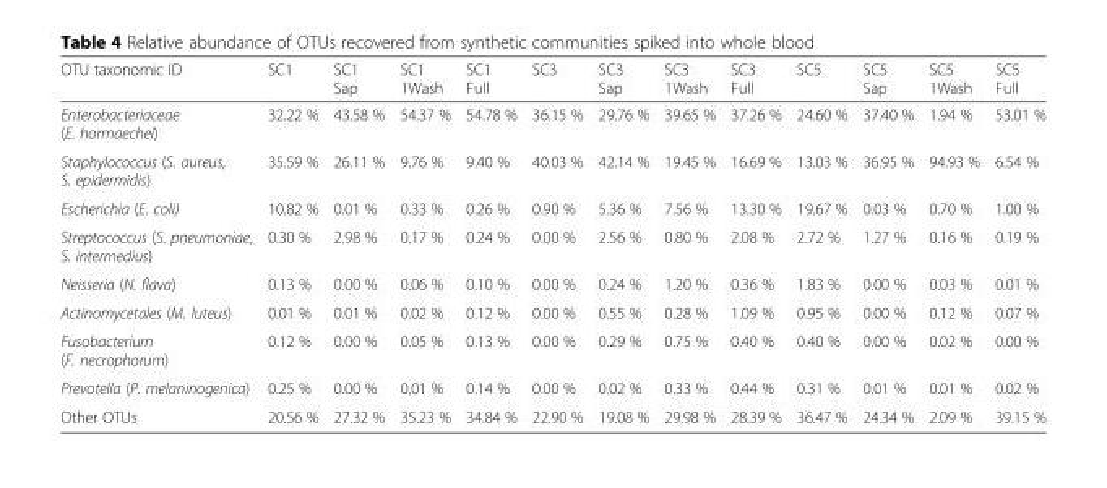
<table><thead><tr><td>OTU taxonomic ID</td><td>SC1</td><td>SC1 Sap</td><td>SC1 1Wash</td><td>SC1 Full</td><td>SC3</td><td>SC3 Sap</td><td>SC3 1Wash</td><td>SC3 Full</td><td>SC5</td><td>SC5 Sap</td><td>SC5 1Wash</td><td>SC5 Full</td></tr></thead><tbody><tr><td>Enterobacteriaceae (E. hormaechei)</td><td>32.22 %</td><td>43.58 %</td><td>54.37 %</td><td>54.78 %</td><td>36.15 %</td><td>29.76 %</td><td>39.65 %</td><td>37.26 %</td><td>24.60 %</td><td>37.40 %</td><td>1.94 %</td><td>53.01 %</td></tr><tr><td>Staphylococcus (S. aureus, S. epidermidis)</td><td>35.59 %</td><td>26.11 %</td><td>9.76 %</td><td>9.40 %</td><td>40.03 %</td><td>42.14 %</td><td>19.45 %</td><td>16.69 %</td><td>13.03 %</td><td>36.95 %</td><td>94.93 %</td><td>6.54 %</td></tr><tr><td>Escherichia (E. coli)</td><td>10.82 %</td><td>0.01 %</td><td>0.33 %</td><td>0.26 %</td><td>0.90 %</td><td>5.36 %</td><td>7.56 %</td><td>13.30 %</td><td>19.67 %</td><td>0.03 %</td><td>0.70 %</td><td>1.00 %</td></tr><tr><td>Streptococcus (S. pneumoniae, S. intermedius)</td><td>0.30 %</td><td>2.98 %</td><td>0.17 %</td><td>0.24 %</td><td>0.00 %</td><td>2.56 %</td><td>0.80 %</td><td>2.08 %</td><td>2.72 %</td><td>1.27 %</td><td>0.16 %</td><td>0.19 %</td></tr><tr><td>Neisseria (N. flava)</td><td>0.13 %</td><td>0.00 %</td><td>0.06 %</td><td>0.10 %</td><td>0.00 %</td><td>0.24 %</td><td>1.20 %</td><td>0.36 %</td><td>1.83 %</td><td>0.00 %</td><td>0.03 %</td><td>0.01 %</td></tr><tr><td>Actinomycetales (M. luteus)</td><td>0.01 %</td><td>0.01 %</td><td>0.02 %</td><td>0.12 %</td><td>0.00 %</td><td>0.55 %</td><td>0.28 %</td><td>1.09 %</td><td>0.95 %</td><td>0.00 %</td><td>0.12 %</td><td>0.07 %</td></tr><tr><td>Fusobacterium (F. necrophorum)</td><td>0.12 %</td><td>0.00 %</td><td>0.05 %</td><td>0.13 %</td><td>0.00 %</td><td>0.29 %</td><td>0.75 %</td><td>0.40 %</td><td>0.40 %</td><td>0.00 %</td><td>0.02 %</td><td>0.00 %</td></tr><tr><td>Prevotella (P. melaninogenica)</td><td>0.25 %</td><td>0.00 %</td><td>0.01 %</td><td>0.14 %</td><td>0.00 %</td><td>0.02 %</td><td>0.33 %</td><td>0.44 %</td><td>0.31 %</td><td>0.01 %</td><td>0.01 %</td><td>0.02 %</td></tr><tr><td>Other OTUs</td><td>20.56 %</td><td>27.32 %</td><td>35.23 %</td><td>34.84 %</td><td>22.90 %</td><td>19.08 %</td><td>29.98 %</td><td>28.39 %</td><td>36.47 %</td><td>24.34 %</td><td>2.09 %</td><td>39.15 %</td></tr></tbody></table>